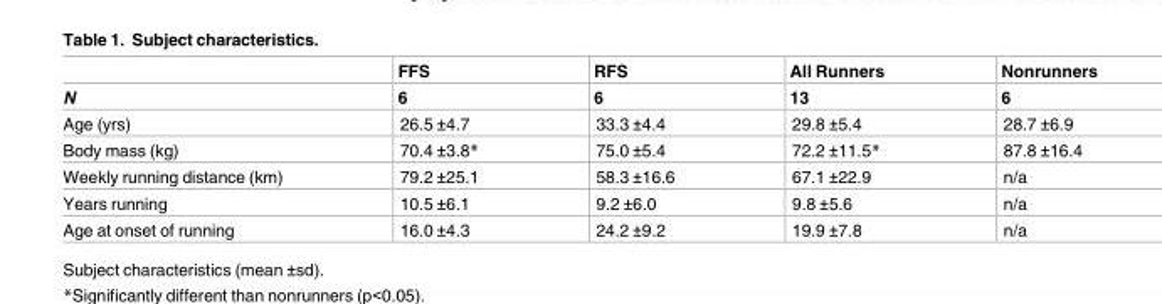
<table><thead><tr><td rowspan="2">N</td><td rowspan="2">FFS 6</td><td rowspan="2">RFS 6</td><td rowspan="2">All Runners 13</td><td rowspan="2">Nonrunners 6</td></tr><tr></tr></thead><tbody><tr><td>Age (yrs)</td><td>26.5 ±4.7</td><td>33.3 ±4.4</td><td>29.8 ±5.4</td><td>28.7 ±6.9</td></tr><tr><td>Body mass (kg)</td><td>70.4 ±3.8*</td><td>75.0 ±5.4</td><td>72.2 ±11.5*</td><td>87.8 ±16.4</td></tr><tr><td>Weekly running distance (km)</td><td>79.2 ±25.1</td><td>58.3 ±16.6</td><td>67.1 ±22.9</td><td>n/a</td></tr><tr><td>Years running</td><td>10.5 ±6.1</td><td>9.2 ±6.0</td><td>9.8 ±5.6</td><td>n/a</td></tr><tr><td>Age at onset of running</td><td>16.0 ±4.3</td><td>24.2 ±9.2</td><td>19.9 ±7.8</td><td>n/a</td></tr></tbody></table>